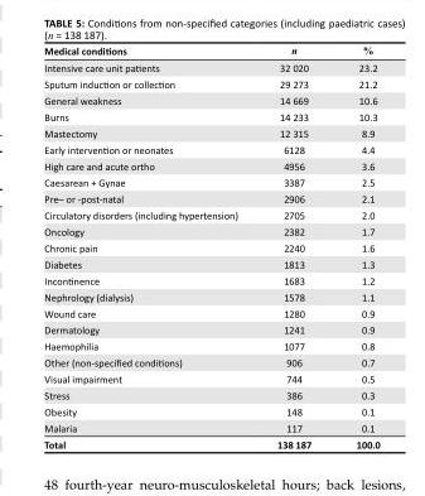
<table><thead><tr><td>Medical conditions</td><td>n</td><td>%</td></tr></thead><tbody><tr><td>Intensive care unit patients</td><td>32 020</td><td>23.2</td></tr><tr><td>Sputum induction or collection</td><td>29 273</td><td>21.2</td></tr><tr><td>General weakness</td><td>14 669</td><td>10.6</td></tr><tr><td>Burns</td><td>14 233</td><td>10.3</td></tr><tr><td>Mastectomy</td><td>12 315</td><td>8.9</td></tr><tr><td>Early intervention or neonates</td><td>6128</td><td>4.4</td></tr><tr><td>High care and acute ortho</td><td>4956</td><td>3.6</td></tr><tr><td>Caesarean + Gynae</td><td>3387</td><td>2.5</td></tr><tr><td>Pre– or -post-natal</td><td>2906</td><td>2.1</td></tr><tr><td>Circulatory disorders (including hypertension)</td><td>2705</td><td>2.0</td></tr><tr><td>Oncology</td><td>2382</td><td>1.7</td></tr><tr><td>Chronic pain</td><td>2240</td><td>1.6</td></tr><tr><td>Diabetes</td><td>1813</td><td>1.3</td></tr><tr><td>Incontinence</td><td>1683</td><td>1.2</td></tr><tr><td>Nephrology (dialysis)</td><td>1578</td><td>1.1</td></tr><tr><td>Wound care</td><td>1280</td><td>0.9</td></tr><tr><td>Dermatology</td><td>1241</td><td>0.9</td></tr><tr><td>Haemophilia</td><td>1077</td><td>0.8</td></tr><tr><td>Other (non-specified conditions)</td><td>906</td><td>0.7</td></tr><tr><td>Visual impairment</td><td>744</td><td>0.5</td></tr><tr><td>Stress</td><td>386</td><td>0.3</td></tr><tr><td>Obesity</td><td>148</td><td>0.1</td></tr><tr><td>Malaria</td><td>117</td><td>0.1</td></tr><tr><td>Total</td><td>138 187</td><td>100.0</td></tr></tbody></table>